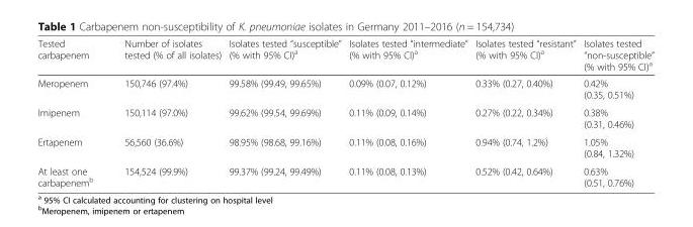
<table><thead><tr><td>Tested carbapenem</td><td>Number of isolates tested (% of all isolates)</td><td>Isolates tested “susceptible” (% with 95% CI)<sup>a</sup></td><td>Isolates tested “intermediate” (% with 95% CI)<sup>a</sup></td><td>Isolates tested “resistant” (% with 95% CI)<sup>a</sup></td><td>Isolates tested “non-susceptible” (% with 95% CI)<sup>a</sup></td></tr></thead><tbody><tr><td>Meropenem</td><td>150,746 (97.4%)</td><td>99.58% (99.49, 99.65%)</td><td>0.09% (0.07, 0.12%)</td><td>0.33% (0.27, 0.40%)</td><td>0.42% (0.35, 0.51%)</td></tr><tr><td>Imipenem</td><td>150,114 (97.0%)</td><td>99.62% (99.54, 99.69%)</td><td>0.11% (0.09, 0.14%)</td><td>0.27% (0.22, 0.34%)</td><td>0.38% (0.31, 0.46%)</td></tr><tr><td>Ertapenem</td><td>56,560 (36.6%)</td><td>98.95% (98.68, 99.16%)</td><td>0.11% (0.08, 0.16%)</td><td>0.94% (0.74, 1.2%)</td><td>1.05% (0.84, 1.32%)</td></tr><tr><td>At least one carbapenem<sup>b</sup></td><td>154,524 (99.9%)</td><td>99.37% (99.24, 99.49%)</td><td>0.11% (0.08, 0.13%)</td><td>0.52% (0.42, 0.64%)</td><td>0.63% (0.51, 0.76%)</td></tr></tbody></table>